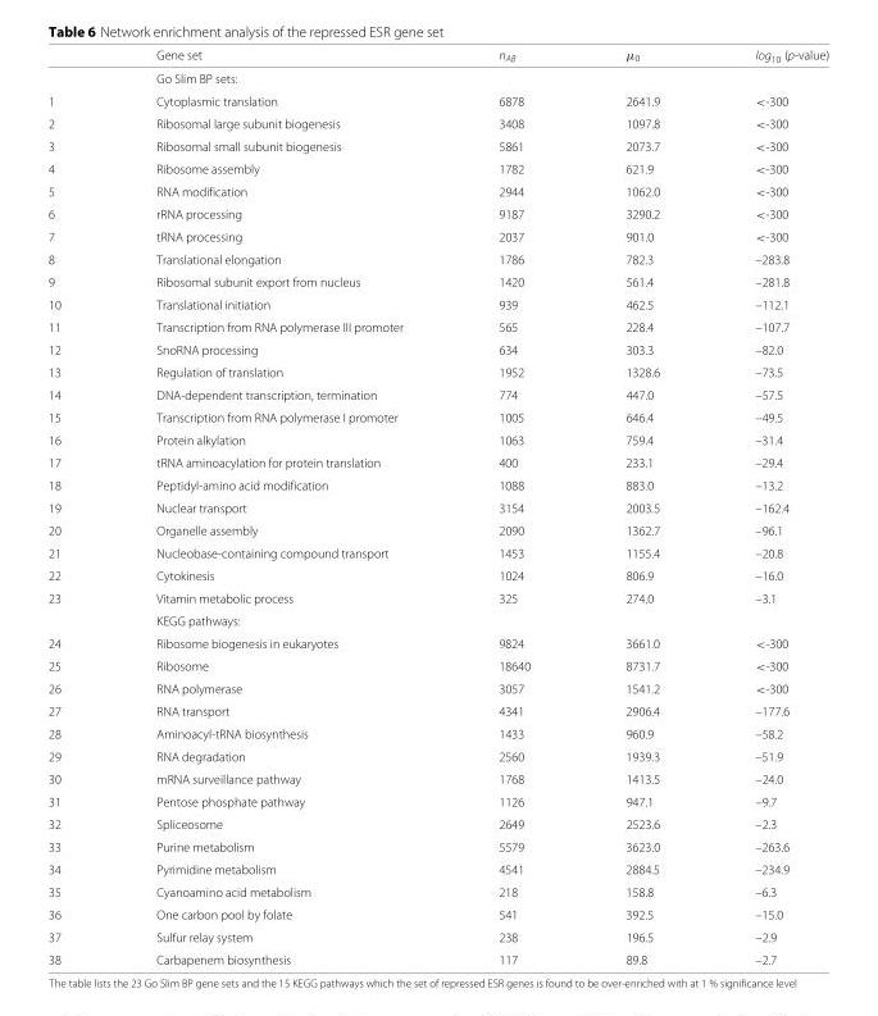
<table><thead><tr><td></td><td>Gene set</td><td>n<sub>AB</sub></td><td>μ<sub>0</sub></td><td>log<sub>10</sub> (p-value)</td></tr></thead><tbody><tr><td></td><td>Go Slim BP sets:</td><td></td><td></td><td></td></tr><tr><td>1</td><td>Cytoplasmic translation</td><td>6878</td><td>2641.9</td><td>&lt;-300</td></tr><tr><td>2</td><td>Ribosomal large subunit biogenesis</td><td>3408</td><td>1097.8</td><td>&lt;-300</td></tr><tr><td>3</td><td>Ribosomal small subunit biogenesis</td><td>5861</td><td>2073.7</td><td>&lt;-300</td></tr><tr><td>4</td><td>Ribosome assembly</td><td>1782</td><td>621.9</td><td>&lt;-300</td></tr><tr><td>5</td><td>RNA modification</td><td>2944</td><td>1062.0</td><td>&lt;-300</td></tr><tr><td>6</td><td>rRNA processing</td><td>9187</td><td>3290.2</td><td>&lt;-300</td></tr><tr><td>7</td><td>tRNA processing</td><td>2037</td><td>901.0</td><td>&lt;-300</td></tr><tr><td>8</td><td>Translational elongation</td><td>1786</td><td>782.3</td><td>–283.8</td></tr><tr><td>9</td><td>Ribosomal subunit export from nucleus</td><td>1420</td><td>561.4</td><td>–281.8</td></tr><tr><td>10</td><td>Translational initiation</td><td>939</td><td>462.5</td><td>–112.1</td></tr><tr><td>11</td><td>Transcription from RNA polymerase III promoter</td><td>565</td><td>228.4</td><td>–107.7</td></tr><tr><td>12</td><td>SnoRNA processing</td><td>634</td><td>303.3</td><td>–82.0</td></tr><tr><td>13</td><td>Regulation of translation</td><td>1952</td><td>1328.6</td><td>–73.5</td></tr><tr><td>14</td><td>DNA-dependent transcription, termination</td><td>774</td><td>447.0</td><td>–57.5</td></tr><tr><td>15</td><td>Transcription from RNA polymerase I promoter</td><td>1005</td><td>646.4</td><td>–49.5</td></tr><tr><td>16</td><td>Protein alkylation</td><td>1063</td><td>759.4</td><td>–31.4</td></tr><tr><td>17</td><td>tRNA aminoacylation for protein translation</td><td>400</td><td>233.1</td><td>–29.4</td></tr><tr><td>18</td><td>Peptidyl-amino acid modification</td><td>1088</td><td>883.0</td><td>–13.2</td></tr><tr><td>19</td><td>Nuclear transport</td><td>3154</td><td>2003.5</td><td>–162.4</td></tr><tr><td>20</td><td>Organelle assembly</td><td>2090</td><td>1362.7</td><td>–96.1</td></tr><tr><td>21</td><td>Nucleobase-containing compound transport</td><td>1453</td><td>1155.4</td><td>–20.8</td></tr><tr><td>22</td><td>Cytokinesis</td><td>1024</td><td>806.9</td><td>–16.0</td></tr><tr><td rowspan="2">23</td><td>Vitamin metabolic process</td><td>325</td><td>274.0</td><td>–3.1</td></tr><tr><td>KEGG pathways:</td><td></td><td></td><td></td></tr><tr><td>24</td><td>Ribosome biogenesis in eukaryotes</td><td>9824</td><td>3661.0</td><td>&lt;-300</td></tr><tr><td>25</td><td>Ribosome</td><td>18640</td><td>8731.7</td><td>&lt;-300</td></tr><tr><td>26</td><td>RNA polymerase</td><td>3057</td><td>1541.2</td><td>&lt;-300</td></tr><tr><td>27</td><td>RNA transport</td><td>4341</td><td>2906.4</td><td>–177.6</td></tr><tr><td>28</td><td>Aminoacyl-tRNA biosynthesis</td><td>1433</td><td>960.9</td><td>–58.2</td></tr><tr><td>29</td><td>RNA degradation</td><td>2560</td><td>1939.3</td><td>–51.9</td></tr><tr><td>30</td><td>mRNA surveillance pathway</td><td>1768</td><td>1413.5</td><td>–24.0</td></tr><tr><td>31</td><td>Pentose phosphate pathway</td><td>1126</td><td>947.1</td><td>–9.7</td></tr><tr><td>32</td><td>Spliceosome</td><td>2649</td><td>2523.6</td><td>–2.3</td></tr><tr><td>33</td><td>Purine metabolism</td><td>5579</td><td>3623.0</td><td>–263.6</td></tr><tr><td>34</td><td>Pyrimidine metabolism</td><td>4541</td><td>2884.5</td><td>–234.9</td></tr><tr><td>35</td><td>Cyanoamino acid metabolism</td><td>218</td><td>158.8</td><td>–6.3</td></tr><tr><td>36</td><td>One carbon pool by folate</td><td>541</td><td>392.5</td><td>–15.0</td></tr><tr><td>37</td><td>Sulfur relay system</td><td>238</td><td>196.5</td><td>–2.9</td></tr><tr><td>38</td><td>Carbapenem biosynthesis</td><td>117</td><td>89.8</td><td>–2.7</td></tr></tbody></table>